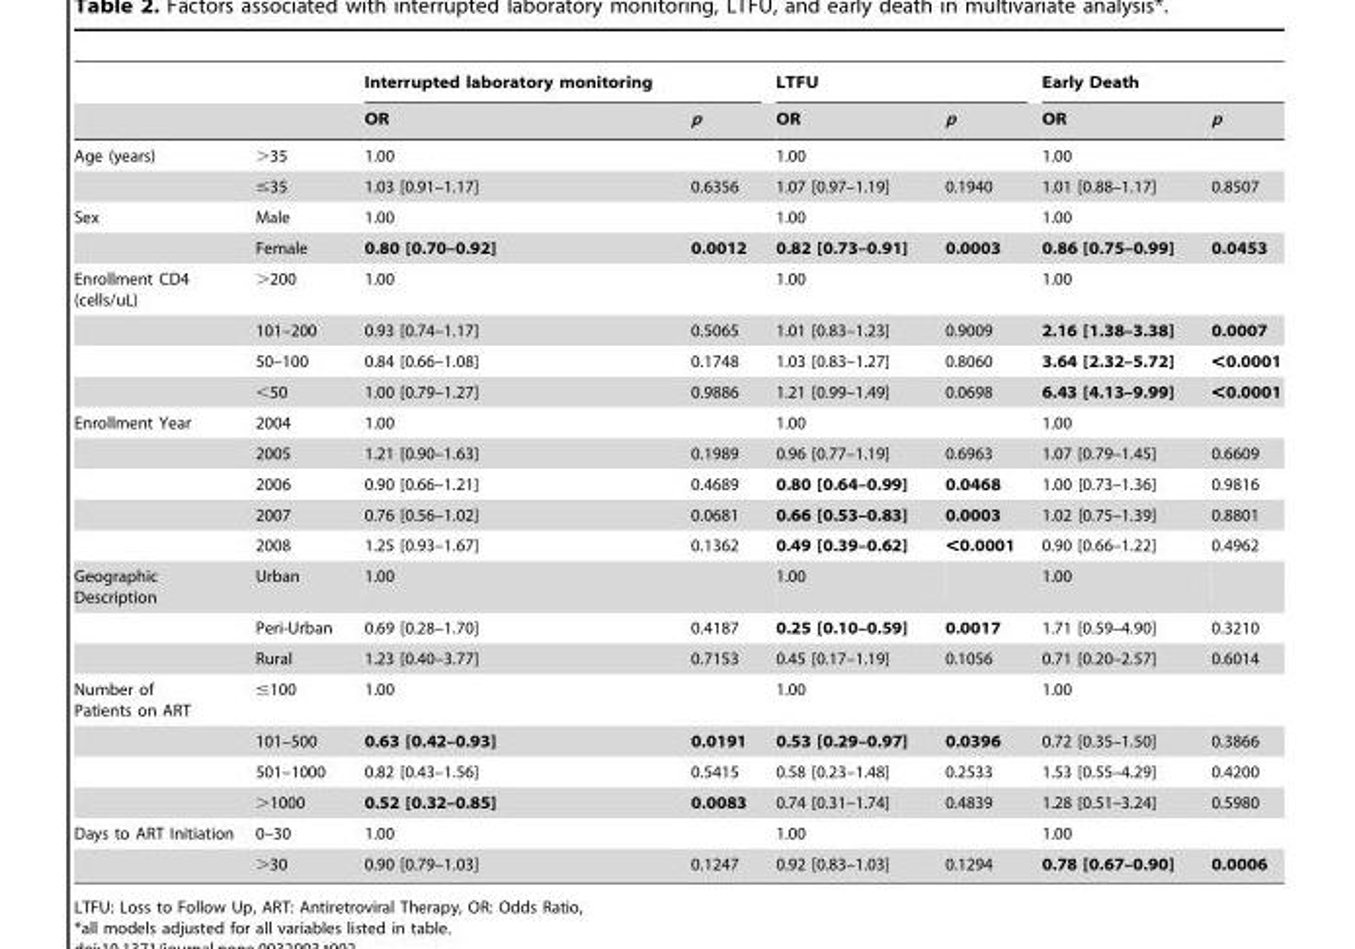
<table><thead><tr><td rowspan="2"></td><td rowspan="2"></td><td colspan="2">Interrupted laboratory monitoring</td><td colspan="2">LTFU</td><td colspan="2">Early Death</td></tr><tr><td>OR</td><td>p</td><td>OR</td><td>p</td><td>OR</td><td>p</td></tr></thead><tbody><tr><td rowspan="2">Age (years)</td><td>&gt;35</td><td>1.00</td><td></td><td>1.00</td><td></td><td>1.00</td><td></td></tr><tr><td>≤35</td><td>1.03 [0.91–1.17]</td><td>0.6356</td><td>1.07 [0.97–1.19]</td><td>0.1940</td><td>1.01 [0.88–1.17]</td><td>0.8507</td></tr><tr><td rowspan="2">Sex</td><td>Male</td><td>1.00</td><td></td><td>1.00</td><td></td><td>1.00</td><td></td></tr><tr><td>Female</td><td>0.80 [0.70–0.92]</td><td>0.0012</td><td>0.82 [0.73–0.91]</td><td>0.0003</td><td>0.86 [0.75–0.99]</td><td>0.0453</td></tr><tr><td rowspan="4">Enrollment CD4 (cells/uL)</td><td>&gt;200</td><td>1.00</td><td></td><td>1.00</td><td></td><td>1.00</td><td></td></tr><tr><td>101–200</td><td>0.93 [0.74–1.17]</td><td>0.5065</td><td>1.01 [0.83–1.23]</td><td>0.9009</td><td>2.16 [1.38–3.38]</td><td>0.0007</td></tr><tr><td>50–100</td><td>0.84 [0.66–1.08]</td><td>0.1748</td><td>1.03 [0.83–1.27]</td><td>0.8060</td><td>3.64 [2.32–5.72]</td><td>&lt;0.0001</td></tr><tr><td>&lt;50</td><td>1.00 [0.79–1.27]</td><td>0.9886</td><td>1.21 [0.99–1.49]</td><td>0.0698</td><td>6.43 [4.13–9.99]</td><td>&lt;0.0001</td></tr><tr><td rowspan="5">Enrollment Year</td><td>2004</td><td>1.00</td><td></td><td>1.00</td><td></td><td>1.00</td><td></td></tr><tr><td>2005</td><td>1.21 [0.90–1.63]</td><td>0.1989</td><td>0.96 [0.77–1.19]</td><td>0.6963</td><td>1.07 [0.79–1.45]</td><td>0.6609</td></tr><tr><td>2006</td><td>0.90 [0.66–1.21]</td><td>0.4689</td><td>0.80 [0.64–0.99]</td><td>0.0468</td><td>1.00 [0.73–1.36]</td><td>0.9816</td></tr><tr><td>2007</td><td>0.76 [0.56–1.02]</td><td>0.0681</td><td>0.66 [0.53–0.83]</td><td>0.0003</td><td>1.02 [0.75–1.39]</td><td>0.8801</td></tr><tr><td>2008</td><td>1.25 [0.93–1.67]</td><td>0.1362</td><td>0.49 [0.39–0.62]</td><td>&lt;0.0001</td><td>0.90 [0.66–1.22]</td><td>0.4962</td></tr><tr><td rowspan="3">Geographic Description</td><td>Urban</td><td>1.00</td><td></td><td>1.00</td><td></td><td>1.00</td><td></td></tr><tr><td>Peri-Urban</td><td>0.69 [0.28–1.70]</td><td>0.4187</td><td>0.25 [0.10–0.59]</td><td>0.0017</td><td>1.71 [0.59–4.90]</td><td>0.3210</td></tr><tr><td>Rural</td><td>1.23 [0.40–3.77]</td><td>0.7153</td><td>0.45 [0.17–1.19]</td><td>0.1056</td><td>0.71 [0.20–2.57]</td><td>0.6014</td></tr><tr><td rowspan="4">Number of Patients on ART</td><td>≤100</td><td>1.00</td><td></td><td>1.00</td><td></td><td>1.00</td><td></td></tr><tr><td>101–500</td><td>0.63 [0.42–0.93]</td><td>0.0191</td><td>0.53 [0.29–0.97]</td><td>0.0396</td><td>0.72 [0.35–1.50]</td><td>0.3866</td></tr><tr><td>501–1000</td><td>0.82 [0.43–1.56]</td><td>0.5415</td><td>0.58 [0.23–1.48]</td><td>0.2533</td><td>1.53 [0.55–4.29]</td><td>0.4200</td></tr><tr><td>&gt;1000</td><td>0.52 [0.32–0.85]</td><td>0.0083</td><td>0.74 [0.31–1.74]</td><td>0.4839</td><td>1.28 [0.51–3.24]</td><td>0.5980</td></tr><tr><td rowspan="2">Days to ART Initiation</td><td>0–30</td><td>1.00</td><td></td><td>1.00</td><td></td><td>1.00</td><td></td></tr><tr><td>&gt;30</td><td>0.90 [0.79–1.03]</td><td>0.1247</td><td>0.92 [0.83–1.03]</td><td>0.1294</td><td>0.78 [0.67–0.90]</td><td>0.0006</td></tr></tbody></table>